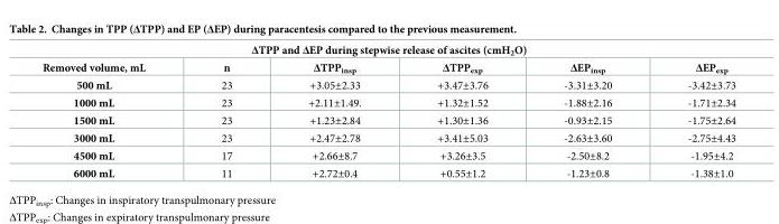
<table><thead><tr><td colspan="6">ΔTPP and ΔEP during stepwise release of ascites (cmH<sub>2</sub>O)</td></tr><tr><td>Removed volume, mL</td><td>n</td><td>ΔTPP<sub>insp</sub></td><td>ΔTPP<sub>exp</sub></td><td>ΔEP<sub>insp</sub></td><td>ΔEP<sub>exp</sub></td></tr></thead><tbody><tr><td>500 mL</td><td>23</td><td>+3.05±2.33</td><td>+3.47±3.76</td><td>-3.31±3.20</td><td>-3.42±3.73</td></tr><tr><td>1000 mL</td><td>23</td><td>+2.11±1.49.</td><td>+1.32±1.52</td><td>-1.88±2.16</td><td>-1.71±2.34</td></tr><tr><td>1500 mL</td><td>23</td><td>+1.23±2.84</td><td>+1.30±1.36</td><td>-0.93±2.15</td><td>-1.75±2.64</td></tr><tr><td>3000 mL</td><td>23</td><td>+2.47±2.78</td><td>+3.41±5.03</td><td>-2.63±3.60</td><td>-2.75±4.43</td></tr><tr><td>4500 mL</td><td>17</td><td>+2.66±8.7</td><td>+3.26±3.5</td><td>-2.50±8.2</td><td>-1.95±4.2</td></tr><tr><td>6000 mL</td><td>11</td><td>+2.72±0.4</td><td>+0.55±1.2</td><td>-1.23±0.8</td><td>-1.38±1.0</td></tr></tbody></table>